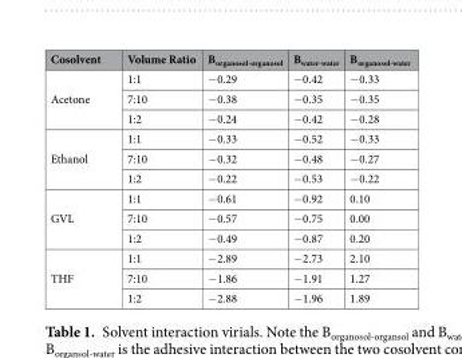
<table><thead><tr><td>Cosolvent</td><td>Volume Ratio</td><td>B<sub>organosol-organosol</sub></td><td>B<sub>water-water</sub></td><td>B<sub>organosol-water</sub></td></tr></thead><tbody><tr><td rowspan="3">Acetone</td><td>1:1</td><td>−0.29</td><td>−0.42</td><td>−0.33</td></tr><tr><td>7:10</td><td>−0.38</td><td>−0.35</td><td>−0.35</td></tr><tr><td>1:2</td><td>−0.24</td><td>−0.42</td><td>−0.28</td></tr><tr><td rowspan="3">Ethanol</td><td>1:1</td><td>−0.33</td><td>−0.52</td><td>−0.33</td></tr><tr><td>7:10</td><td>−0.32</td><td>−0.48</td><td>−0.27</td></tr><tr><td>1:2</td><td>−0.22</td><td>−0.53</td><td>−0.22</td></tr><tr><td rowspan="3">GVL</td><td>1:1</td><td>−0.61</td><td>−0.92</td><td>0.10</td></tr><tr><td>7:10</td><td>−0.57</td><td>−0.75</td><td>0.00</td></tr><tr><td>1:2</td><td>−0.49</td><td>−0.87</td><td>0.20</td></tr><tr><td rowspan="3">THF</td><td>1:1</td><td>−2.89</td><td>−2.73</td><td>2.10</td></tr><tr><td>7:10</td><td>−1.86</td><td>−1.91</td><td>1.27</td></tr><tr><td>1:2</td><td>−2.88</td><td>−1.96</td><td>1.89</td></tr></tbody></table>